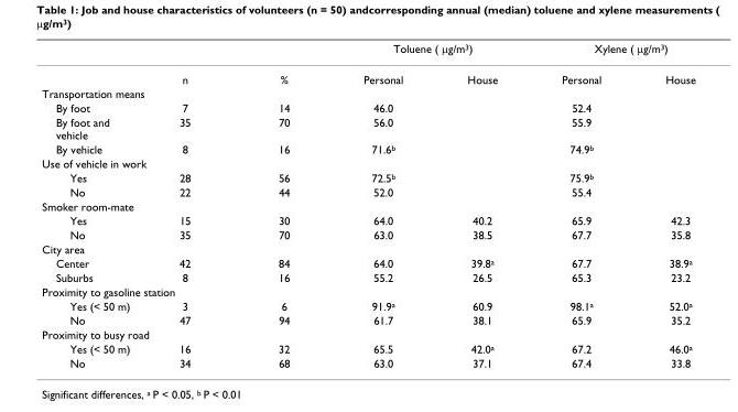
<table><thead><tr><td rowspan="2"></td><td rowspan="2">n</td><td rowspan="2">%</td><td colspan="2">Toluene ( µg/m3)</td><td colspan="2">Xylene ( µg/m3)</td></tr><tr><td>Personal</td><td>House</td><td>Personal</td><td>House</td></tr></thead><tbody><tr><td colspan="7">Transportation means</td></tr><tr><td>By foot</td><td>7</td><td>14</td><td>46.0</td><td></td><td>52.4</td><td></td></tr><tr><td>By foot and vehicle</td><td>35</td><td>70</td><td>56.0</td><td></td><td>55.9</td><td></td></tr><tr><td>By vehicle</td><td>8</td><td>16</td><td>71.6b</td><td></td><td>74.9b</td><td></td></tr><tr><td colspan="7">Use of vehicle in work</td></tr><tr><td>Yes</td><td>28</td><td>56</td><td>72.5b</td><td></td><td>75.9b</td><td></td></tr><tr><td>No</td><td>22</td><td>44</td><td>52.0</td><td></td><td>55.4</td><td></td></tr><tr><td colspan="7">Smoker room-mate</td></tr><tr><td>Yes</td><td>15</td><td>30</td><td>64.0</td><td>40.2</td><td>65.9</td><td>42.3</td></tr><tr><td>No</td><td>35</td><td>70</td><td>63.0</td><td>38.5</td><td>67.7</td><td>35.8</td></tr><tr><td colspan="7">City area</td></tr><tr><td>Center</td><td>42</td><td>84</td><td>64.0</td><td>39.8a</td><td>67.7</td><td>38.9a</td></tr><tr><td>Suburbs</td><td>8</td><td>16</td><td>55.2</td><td>26.5</td><td>65.3</td><td>23.2</td></tr><tr><td colspan="7">Proximity to gasoline station</td></tr><tr><td>Yes (&lt; 50 m)</td><td>3</td><td>6</td><td>91.9a</td><td>60.9</td><td>98.1a</td><td>52.0a</td></tr><tr><td>No</td><td>47</td><td>94</td><td>61.7</td><td>38.1</td><td>65.9</td><td>35.2</td></tr><tr><td colspan="7">Proximity to busy road</td></tr><tr><td>Yes (&lt; 50 m)</td><td>16</td><td>32</td><td>65.5</td><td>42.0a</td><td>67.2</td><td>46.0a</td></tr><tr><td>No</td><td>34</td><td>68</td><td>63.0</td><td>37.1</td><td>67.4</td><td>33.8</td></tr></tbody></table>